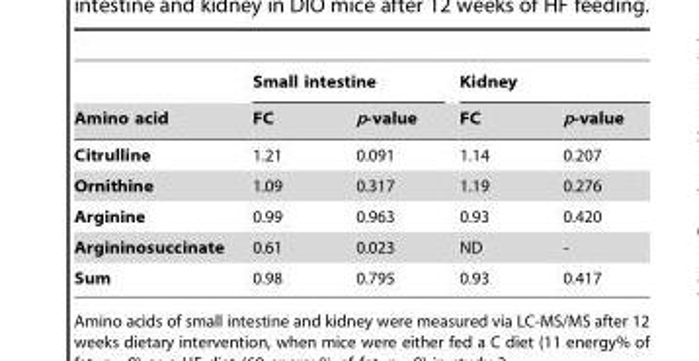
<table><thead><tr><td rowspan="2">Amino acid</td><td colspan="2">Small intestine</td><td colspan="2">Kidney</td></tr><tr><td>FC</td><td>p-value</td><td>FC</td><td>p-value</td></tr></thead><tbody><tr><td>Citrulline</td><td>1.21</td><td>0.091</td><td>1.14</td><td>0.207</td></tr><tr><td>Ornithine</td><td>1.09</td><td>0.317</td><td>1.19</td><td>0.276</td></tr><tr><td>Arginine</td><td>0.99</td><td>0.963</td><td>0.93</td><td>0.420</td></tr><tr><td>Argininosuccinate</td><td>0.61</td><td>0.023</td><td>ND</td><td>-</td></tr><tr><td>Sum</td><td>0.98</td><td>0.795</td><td>0.93</td><td>0.417</td></tr></tbody></table>